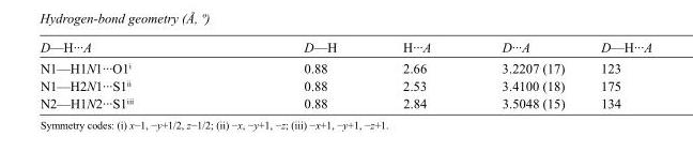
<table><tbody><tr><td>D—H···A</td><td>D—H</td><td>H···A</td><td>D···A</td><td>D—H···A</td></tr><tr><td>N1—H1N1···O1<sup>i</sup></td><td>0.88</td><td>2.66</td><td>3.2207 (17)</td><td>123</td></tr><tr><td>N1—H2N1···S1<sup>ii</sup></td><td>0.88</td><td>2.53</td><td>3.4100 (18)</td><td>175</td></tr><tr><td>N2—H1N2···S1<sup>iii</sup></td><td>0.88</td><td>2.84</td><td>3.5048 (15)</td><td>134</td></tr></tbody></table>